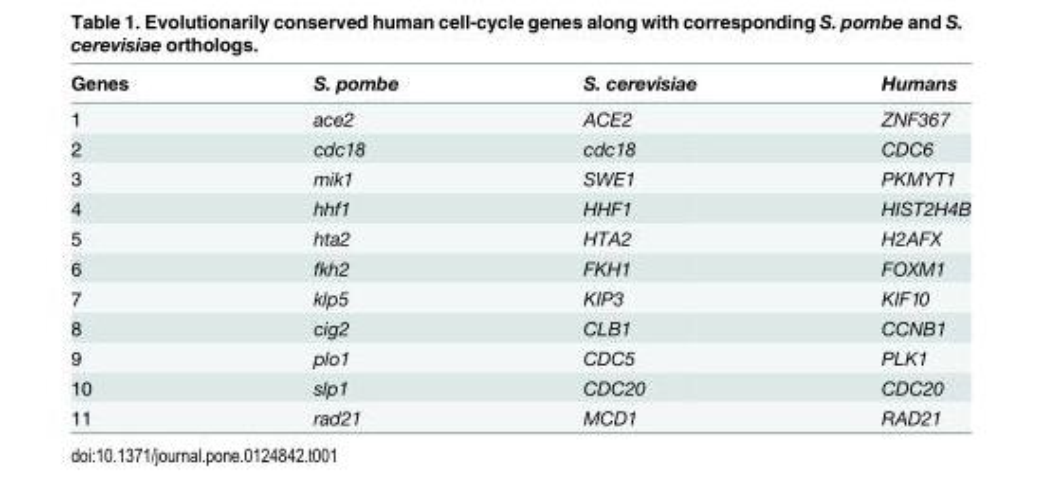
<table><thead><tr><td>Genes</td><td>S. pombe</td><td>S. cerevisiae</td><td>Humans</td></tr></thead><tbody><tr><td>1</td><td>ace2</td><td>ACE2</td><td>ZNF367</td></tr><tr><td>2</td><td>cdc18</td><td>cdc18</td><td>CDC6</td></tr><tr><td>3</td><td>mik1</td><td>SWE1</td><td>PKMYT1</td></tr><tr><td>4</td><td>hhf1</td><td>HHF1</td><td>HIST2H4B</td></tr><tr><td>5</td><td>hta2</td><td>HTA2</td><td>H2AFX</td></tr><tr><td>6</td><td>fkh2</td><td>FKH1</td><td>FOXM1</td></tr><tr><td>7</td><td>klp5</td><td>KIP3</td><td>KIF10</td></tr><tr><td>8</td><td>cig2</td><td>CLB1</td><td>CCNB1</td></tr><tr><td>9</td><td>plo1</td><td>CDC5</td><td>PLK1</td></tr><tr><td>10</td><td>slp1</td><td>CDC20</td><td>CDC20</td></tr><tr><td>11</td><td>rad21</td><td>MCD1</td><td>RAD21</td></tr></tbody></table>